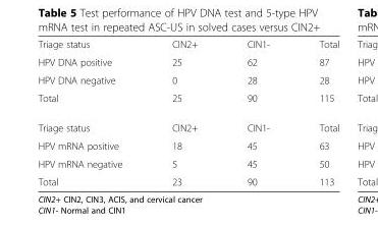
<table><tbody><tr><td>Triage status</td><td>CIN2+</td><td>CIN1-</td><td>Total</td></tr><tr><td>HPV DNA positive</td><td>25</td><td>62</td><td>87</td></tr><tr><td>HPV DNA negative</td><td>0</td><td>28</td><td>28</td></tr><tr><td>Total</td><td>25</td><td>90</td><td>115</td></tr><tr><td>Triage status</td><td>CIN2+</td><td>CIN1-</td><td>Total</td></tr><tr><td>HPV mRNA positive</td><td>18</td><td>45</td><td>63</td></tr><tr><td>HPV mRNA negative</td><td>5</td><td>45</td><td>50</td></tr><tr><td>Total</td><td>23</td><td>90</td><td>113</td></tr></tbody></table>